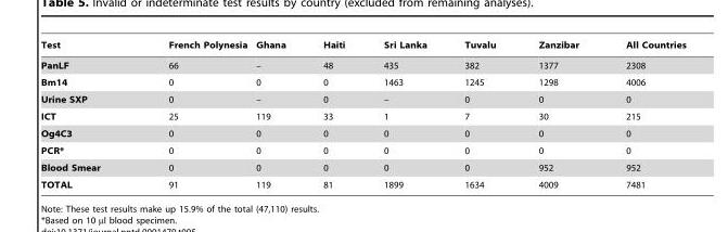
<table><thead><tr><td>Test</td><td>French Polynesia</td><td>Ghana</td><td>Haiti</td><td>Sri Lanka</td><td>Tuvalu</td><td>Zanzibar</td><td>All Countries</td></tr></thead><tbody><tr><td>PanLF</td><td>66</td><td>–</td><td>48</td><td>435</td><td>382</td><td>1377</td><td>2308</td></tr><tr><td>Bm14</td><td>0</td><td>0</td><td>0</td><td>1463</td><td>1245</td><td>1298</td><td>4006</td></tr><tr><td>Urine SXP</td><td>0</td><td>–</td><td>0</td><td>–</td><td>0</td><td>0</td><td>0</td></tr><tr><td>ICT</td><td>25</td><td>119</td><td>33</td><td>1</td><td>7</td><td>30</td><td>215</td></tr><tr><td>Og4C3</td><td>0</td><td>0</td><td>0</td><td>0</td><td>0</td><td>0</td><td>0</td></tr><tr><td>PCR*</td><td>0</td><td>0</td><td>0</td><td>0</td><td>0</td><td>0</td><td>0</td></tr><tr><td>Blood Smear</td><td>0</td><td>0</td><td>0</td><td>0</td><td>0</td><td>952</td><td>952</td></tr><tr><td>TOTAL</td><td>91</td><td>119</td><td>81</td><td>1899</td><td>1634</td><td>4009</td><td>7481</td></tr></tbody></table>